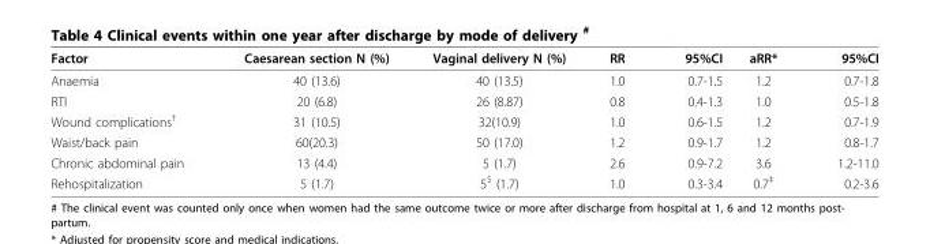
<table><thead><tr><td>Factor</td><td>Caesarean section N (%)</td><td>Vaginal delivery N (%)</td><td>RR</td><td>95%CI</td><td>aRR*</td><td>95%CI</td></tr></thead><tbody><tr><td>Anaemia</td><td>40 (13.6)</td><td>40 (13.5)</td><td>1.0</td><td>0.7-1.5</td><td>1.2</td><td>0.7-1.8</td></tr><tr><td>RTI</td><td>20 (6.8)</td><td>26 (8.87)</td><td>0.8</td><td>0.4-1.3</td><td>1.0</td><td>0.5-1.8</td></tr><tr><td>Wound complications<sup>†</sup></td><td>31 (10.5)</td><td>32(10.9)</td><td>1.0</td><td>0.6-1.5</td><td>1.2</td><td>0.7-1.9</td></tr><tr><td>Waist/back pain</td><td>60(20.3)</td><td>50 (17.0)</td><td>1.2</td><td>0.9-1.7</td><td>1.2</td><td>0.8-1.7</td></tr><tr><td>Chronic abdominal pain</td><td>13 (4.4)</td><td>5 (1.7)</td><td>2.6</td><td>0.9-7.2</td><td>3.6</td><td>1.2-11.0</td></tr><tr><td>Rehospitalization</td><td>5 (1.7)</td><td>5<sup>$</sup> (1.7)</td><td>1.0</td><td>0.3-3.4</td><td>0.7<sup>‡</sup></td><td>0.2-3.6</td></tr></tbody></table>